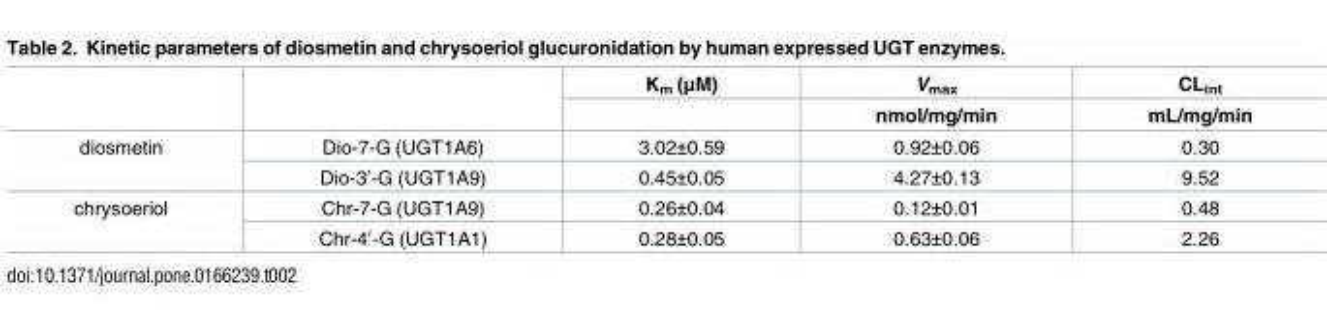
<table><thead><tr><td rowspan="2"></td><td rowspan="2"></td><td rowspan="2">K<sub>m</sub> (μM)</td><td rowspan="2">V<sub>max</sub> nmol/mg/min</td><td rowspan="2">CL<sub>int</sub> mL/mg/min</td></tr><tr></tr></thead><tbody><tr><td rowspan="2">diosmetin</td><td>Dio-7-G (UGT1A6)</td><td>3.02±0.59</td><td>0.92±0.06</td><td>0.30</td></tr><tr><td>Dio-3′-G (UGT1A9)</td><td>0.45±0.05</td><td>4.27±0.13</td><td>9.52</td></tr><tr><td rowspan="2">chrysoeriol</td><td>Chr-7-G (UGT1A9)</td><td>0.26±0.04</td><td>0.12±0.01</td><td>0.48</td></tr><tr><td>Chr-4′-G (UGT1A1)</td><td>0.28±0.05</td><td>0.63±0.06</td><td>2.26</td></tr></tbody></table>